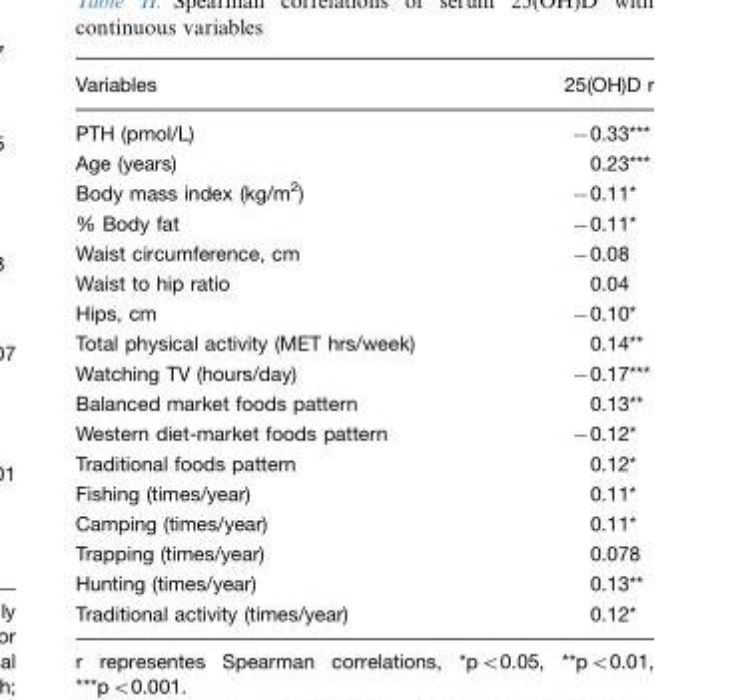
<table><thead><tr><td>Variables</td><td>25(OH)D r</td></tr></thead><tbody><tr><td>PTH (pmol/L)</td><td>−0.33***</td></tr><tr><td>Age (years)</td><td>0.23***</td></tr><tr><td>Body mass index (kg/m<sup>2</sup>)</td><td>−0.11*</td></tr><tr><td>% Body fat</td><td>−0.11*</td></tr><tr><td>Waist circumference, cm</td><td>−0.08</td></tr><tr><td>Waist to hip ratio</td><td>0.04</td></tr><tr><td>Hips, cm</td><td>−0.10*</td></tr><tr><td>Total physical activity (MET hrs/week)</td><td>0.14**</td></tr><tr><td>Watching TV (hours/day)</td><td>−0.17***</td></tr><tr><td>Balanced market foods pattern</td><td>0.13**</td></tr><tr><td>Western diet-market foods pattern</td><td>−0.12*</td></tr><tr><td>Traditional foods pattern</td><td>0.12*</td></tr><tr><td>Fishing (times/year)</td><td>0.11*</td></tr><tr><td>Camping (times/year)</td><td>0.11*</td></tr><tr><td>Trapping (times/year)</td><td>0.078</td></tr><tr><td>Hunting (times/year)</td><td>0.13**</td></tr><tr><td>Traditional activity (times/year)</td><td>0.12*</td></tr></tbody></table>